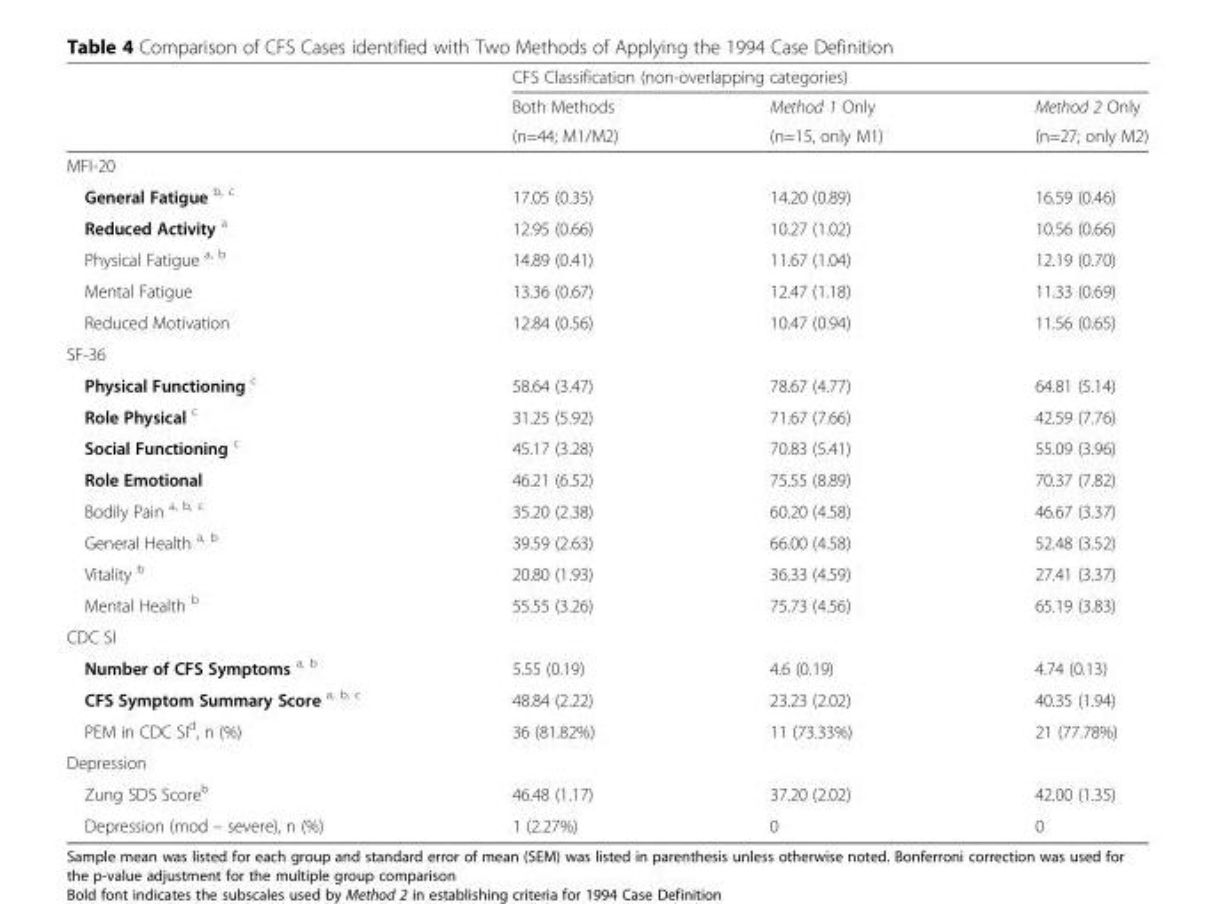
<table><thead><tr><td rowspan="3"></td><td colspan="3">CFS Classification (non-overlapping categories)</td></tr><tr><td rowspan="2">Both Methods (n=44; M1/M2)</td><td rowspan="2">Method 1 Only (n=15, only M1)</td><td rowspan="2">Method 2 Only (n=27; only M2)</td></tr><tr></tr></thead><tbody><tr><td colspan="4">MFI-20</td></tr><tr><td>General Fatigue <sup>b, c</sup></td><td>17.05 (0.35)</td><td>14.20 (0.89)</td><td>16.59 (0.46)</td></tr><tr><td>Reduced Activity <sup>a</sup></td><td>12.95 (0.66)</td><td>10.27 (1.02)</td><td>10.56 (0.66)</td></tr><tr><td>Physical Fatigue <sup>a, b</sup></td><td>14.89 (0.41)</td><td>11.67 (1.04)</td><td>12.19 (0.70)</td></tr><tr><td>Mental Fatigue</td><td>13.36 (0.67)</td><td>12.47 (1.18)</td><td>11.33 (0.69)</td></tr><tr><td>Reduced Motivation</td><td>12.84 (0.56)</td><td>10.47 (0.94)</td><td>11.56 (0.65)</td></tr><tr><td colspan="4">SF-36</td></tr><tr><td>Physical Functioning <sup>c</sup></td><td>58.64 (3.47)</td><td>78.67 (4.77)</td><td>64.81 (5.14)</td></tr><tr><td>Role Physical <sup>c</sup></td><td>31.25 (5.92)</td><td>71.67 (7.66)</td><td>42.59 (7.76)</td></tr><tr><td>Social Functioning <sup>c</sup></td><td>45.17 (3.28)</td><td>70.83 (5.41)</td><td>55.09 (3.96)</td></tr><tr><td>Role Emotional</td><td>46.21 (6.52)</td><td>75.55 (8.89)</td><td>70.37 (7.82)</td></tr><tr><td>Bodily Pain <sup>a, b, c</sup></td><td>35.20 (2.38)</td><td>60.20 (4.58)</td><td>46.67 (3.37)</td></tr><tr><td>General Health <sup>a, b</sup></td><td>39.59 (2.63)</td><td>66.00 (4.58)</td><td>52.48 (3.52)</td></tr><tr><td>Vitality <sup>b</sup></td><td>20.80 (1.93)</td><td>36.33 (4.59)</td><td>27.41 (3.37)</td></tr><tr><td>Mental Health <sup>b</sup></td><td>55.55 (3.26)</td><td>75.73 (4.56)</td><td>65.19 (3.83)</td></tr><tr><td colspan="4">CDC SI</td></tr><tr><td>Number of CFS Symptoms <sup>a, b</sup></td><td>5.55 (0.19)</td><td>4.6 (0.19)</td><td>4.74 (0.13)</td></tr><tr><td>CFS Symptom Summary Score <sup>a, b, c</sup></td><td>48.84 (2.22)</td><td>23.23 (2.02)</td><td>40.35 (1.94)</td></tr><tr><td>PEM in CDC SI<sup>d</sup>, n (%)</td><td>36 (81.82%)</td><td>11 (73.33%)</td><td>21 (77.78%)</td></tr><tr><td colspan="4">Depression</td></tr><tr><td>Zung SDS Score<sup>b</sup></td><td>46.48 (1.17)</td><td>37.20 (2.02)</td><td>42.00 (1.35)</td></tr><tr><td>Depression (mod – severe), n (%)</td><td>1 (2.27%)</td><td>0</td><td>0</td></tr></tbody></table>